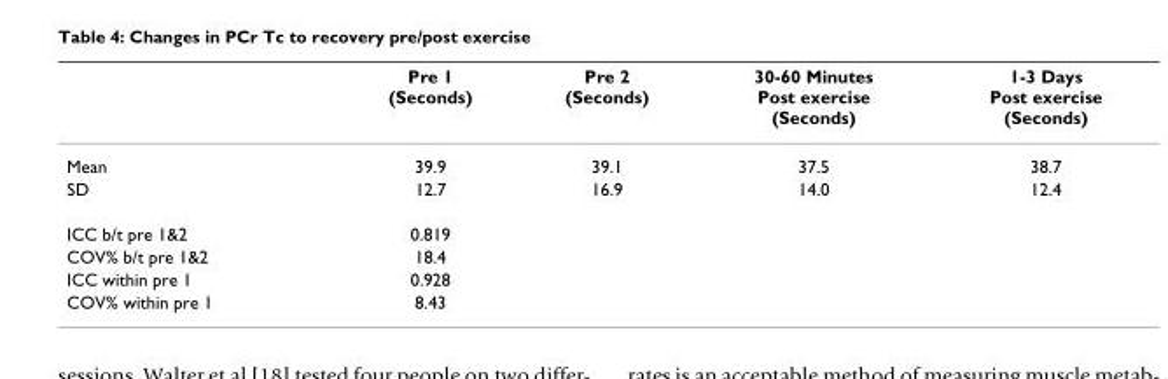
<table><thead><tr><td></td><td>Pre 1 (Seconds)</td><td>Pre 2 (Seconds)</td><td>30-60 Minutes Post exercise (Seconds)</td><td>1-3 Days Post exercise (Seconds)</td></tr></thead><tbody><tr><td>Mean</td><td>39.9</td><td>39.1</td><td>37.5</td><td>38.7</td></tr><tr><td>SD</td><td>12.7</td><td>16.9</td><td>14.0</td><td>12.4</td></tr><tr><td>ICC b/t pre 1&amp;2</td><td>0.819</td><td></td><td></td><td></td></tr><tr><td>COV% b/t pre 1&amp;2</td><td>18.4</td><td></td><td></td><td></td></tr><tr><td>ICC within pre 1</td><td>0.928</td><td></td><td></td><td></td></tr><tr><td>COV% within pre 1</td><td>8.43</td><td></td><td></td><td></td></tr></tbody></table>